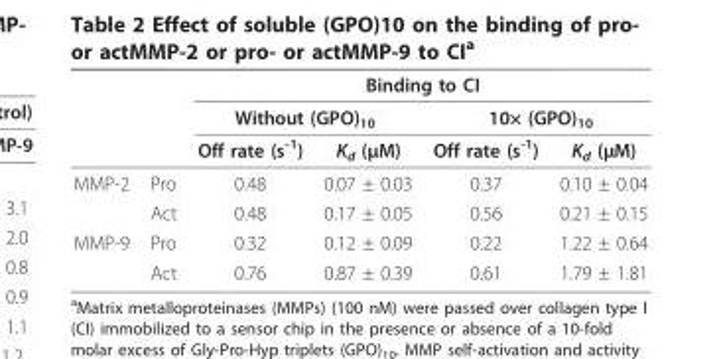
<table><thead><tr><td rowspan="3"></td><td rowspan="3"></td><td colspan="4">Binding to CI</td></tr><tr><td colspan="2">Without (GPO)<sub>10</sub></td><td colspan="2">10× (GPO)<sub>10</sub></td></tr><tr><td>Off rate (s<sup>-1</sup>)</td><td>K<sub>d</sub> (μM)</td><td>Off rate (s<sup>-1</sup>)</td><td>K<sub>d</sub> (μM)</td></tr></thead><tbody><tr><td rowspan="2">MMP-2</td><td>Pro</td><td>0.48</td><td>0.07 ± 0.03</td><td>0.37</td><td>0.10 ± 0.04</td></tr><tr><td>Act</td><td>0.48</td><td>0.17 ± 0.05</td><td>0.56</td><td>0.21 ± 0.15</td></tr><tr><td rowspan="2">MMP-9</td><td>Pro</td><td>0.32</td><td>0.12 ± 0.09</td><td>0.22</td><td>1.22 ± 0.64</td></tr><tr><td>Act</td><td>0.76</td><td>0.87 ± 0.39</td><td>0.61</td><td>1.79 ± 1.81</td></tr></tbody></table>